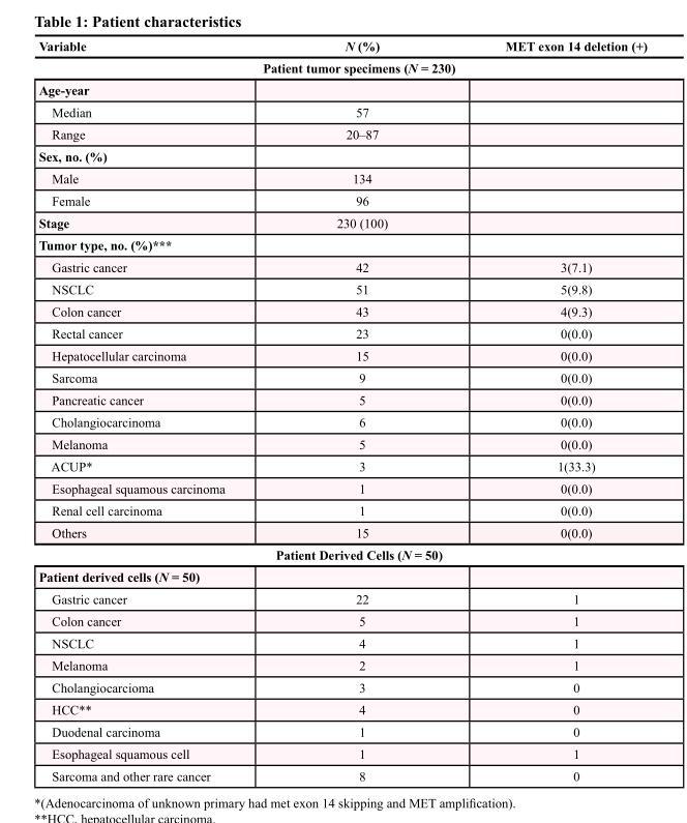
<table><thead><tr><td>Variable</td><td>N (%)</td><td>MET exon 14 deletion (+)</td></tr></thead><tbody><tr><td colspan="3">Patient tumor specimens (N = 230)</td></tr><tr><td colspan="3">Age-year</td></tr><tr><td>Median</td><td>57</td><td></td></tr><tr><td>Range</td><td>20–87</td><td></td></tr><tr><td colspan="3">Sex, no. (%)</td></tr><tr><td>Male</td><td>134</td><td></td></tr><tr><td>Female</td><td>96</td><td></td></tr><tr><td>Stage</td><td>230 (100)</td><td></td></tr><tr><td colspan="3">Tumor type, no. (%)***</td></tr><tr><td>Gastric cancer</td><td>42</td><td>3(7.1)</td></tr><tr><td>NSCLC</td><td>51</td><td>5(9.8)</td></tr><tr><td>Colon cancer</td><td>43</td><td>4(9.3)</td></tr><tr><td>Rectal cancer</td><td>23</td><td>0(0.0)</td></tr><tr><td>Hepatocellular carcinoma</td><td>15</td><td>0(0.0)</td></tr><tr><td>Sarcoma</td><td>9</td><td>0(0.0)</td></tr><tr><td>Pancreatic cancer</td><td>5</td><td>0(0.0)</td></tr><tr><td>Cholangiocarcinoma</td><td>6</td><td>0(0.0)</td></tr><tr><td>Melanoma</td><td>5</td><td>0(0.0)</td></tr><tr><td>ACUP*</td><td>3</td><td>1(33.3)</td></tr><tr><td>Esophageal squamous carcinoma</td><td>1</td><td>0(0.0)</td></tr><tr><td>Renal cell carcinoma</td><td>1</td><td>0(0.0)</td></tr><tr><td>Others</td><td>15</td><td>0(0.0)</td></tr><tr><td colspan="3">Patient Derived Cells (N = 50)</td></tr><tr><td colspan="3">Patient derived cells (N = 50)</td></tr><tr><td>Gastric cancer</td><td>22</td><td>1</td></tr><tr><td>Colon cancer</td><td>5</td><td>1</td></tr><tr><td>NSCLC</td><td>4</td><td>1</td></tr><tr><td>Melanoma</td><td>2</td><td>1</td></tr><tr><td>Cholangiocarcioma</td><td>3</td><td>0</td></tr><tr><td>HCC**</td><td>4</td><td>0</td></tr><tr><td>Duodenal carcinoma</td><td>1</td><td>0</td></tr><tr><td>Esophageal squamous cell</td><td>1</td><td>1</td></tr><tr><td>Sarcoma and other rare cancer</td><td>8</td><td>0</td></tr></tbody></table>